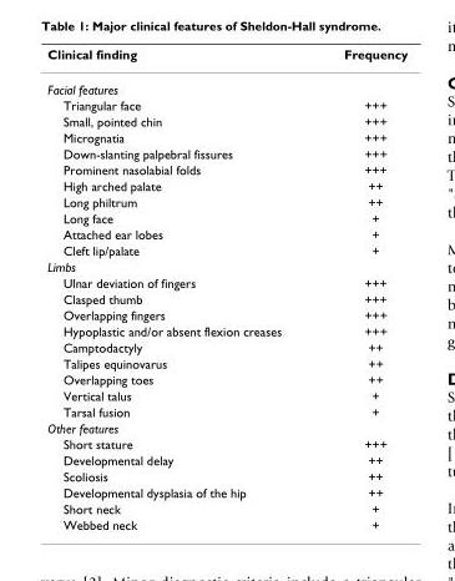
<table><thead><tr><td>Clinical finding</td><td>Frequency</td></tr></thead><tbody><tr><td colspan="2">Facial features</td></tr><tr><td>Triangular face</td><td>+++</td></tr><tr><td>Small, pointed chin</td><td>+++</td></tr><tr><td>Micrognatia</td><td>+++</td></tr><tr><td>Down-slanting palpebral fissures</td><td>+++</td></tr><tr><td>Prominent nasolabial folds</td><td>+++</td></tr><tr><td>High arched palate</td><td>++</td></tr><tr><td>Long philtrum</td><td>++</td></tr><tr><td>Long face</td><td>+</td></tr><tr><td>Attached ear lobes</td><td>+</td></tr><tr><td>Cleft lip/palate</td><td>+</td></tr><tr><td colspan="2">Limbs</td></tr><tr><td>Ulnar deviation of fingers</td><td>+++</td></tr><tr><td>Clasped thumb</td><td>+++</td></tr><tr><td>Overlapping fingers</td><td>+++</td></tr><tr><td>Hypoplastic and/or absent flexion creases</td><td>+++</td></tr><tr><td>Camptodactyly</td><td>++</td></tr><tr><td>Talipes equinovarus</td><td>++</td></tr><tr><td>Overlapping toes</td><td>++</td></tr><tr><td>Vertical talus</td><td>+</td></tr><tr><td>Tarsal fusion</td><td>+</td></tr><tr><td colspan="2">Other features</td></tr><tr><td>Short stature</td><td>+++</td></tr><tr><td>Developmental delay</td><td>++</td></tr><tr><td>Scoliosis</td><td>++</td></tr><tr><td>Developmental dysplasia of the hip</td><td>++</td></tr><tr><td>Short neck</td><td>+</td></tr><tr><td>Webbed neck</td><td>+</td></tr></tbody></table>